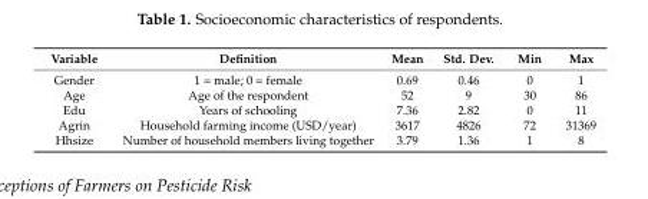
<table><thead><tr><td>Variable</td><td>Definition</td><td>Mean</td><td>Std. Dev.</td><td>Min</td><td>Max</td></tr></thead><tbody><tr><td>Gender</td><td>1 = male; 0 = female</td><td>0.69</td><td>0.46</td><td>0</td><td>1</td></tr><tr><td>Age</td><td>Age of the respondent</td><td>52</td><td>9</td><td>30</td><td>86</td></tr><tr><td>Edu</td><td>Years of schooling</td><td>7.36</td><td>2.82</td><td>0</td><td>11</td></tr><tr><td>Agrin</td><td>Household farming income (USD/year)</td><td>3617</td><td>4826</td><td>72</td><td>31369</td></tr><tr><td>Hhsize</td><td>Number of household members living together</td><td>3.79</td><td>1.36</td><td>1</td><td>8</td></tr></tbody></table>